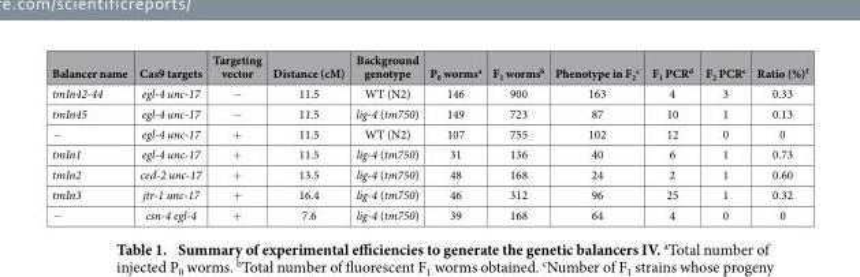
<table><thead><tr><td>Balancer name</td><td>Cas9 targets</td><td>Targeting vector</td><td>Distance (cM)</td><td>Background genotype</td><td>P<sub>0</sub> worms<sup>a</sup></td><td>F<sub>1</sub> worms<sup>b</sup></td><td>Phenotype in F<sub>2</sub> <sup>c</sup></td><td>F<sub>1</sub> PCR<sup>d</sup></td><td>F<sub>2</sub> PCR<sup>e</sup></td><td>Ratio (%)<sup>f</sup></td></tr></thead><tbody><tr><td>tmIn42-44</td><td>egl-4 unc-17</td><td>−</td><td>11.5</td><td>WT (N2)</td><td>146</td><td>900</td><td>163</td><td>4</td><td>3</td><td>0.33</td></tr><tr><td>tmIn45</td><td>egl-4 unc-17</td><td>−</td><td>11.5</td><td>lig-4 (tm750)</td><td>149</td><td>723</td><td>87</td><td>10</td><td>1</td><td>0.13</td></tr><tr><td>−</td><td>egl-4 unc-17</td><td>+</td><td>11.5</td><td>WT (N2)</td><td>107</td><td>755</td><td>102</td><td>12</td><td>0</td><td>0</td></tr><tr><td>tmIn1</td><td>egl-4 unc-17</td><td>+</td><td>11.5</td><td>lig-4 (tm750)</td><td>31</td><td>136</td><td>40</td><td>6</td><td>1</td><td>0.73</td></tr><tr><td>tmIn2</td><td>ced-2 unc-17</td><td>+</td><td>13.5</td><td>lig-4 (tm750)</td><td>48</td><td>168</td><td>24</td><td>2</td><td>1</td><td>0.60</td></tr><tr><td>tmIn3</td><td>jtr-1 unc-17</td><td>+</td><td>16.4</td><td>lig-4 (tm750)</td><td>46</td><td>312</td><td>96</td><td>25</td><td>1</td><td>0.32</td></tr><tr><td>−</td><td>csn-4 egl-4</td><td>+</td><td>7.6</td><td>lig-4 (tm750)</td><td>39</td><td>168</td><td>64</td><td>4</td><td>0</td><td>0</td></tr></tbody></table>